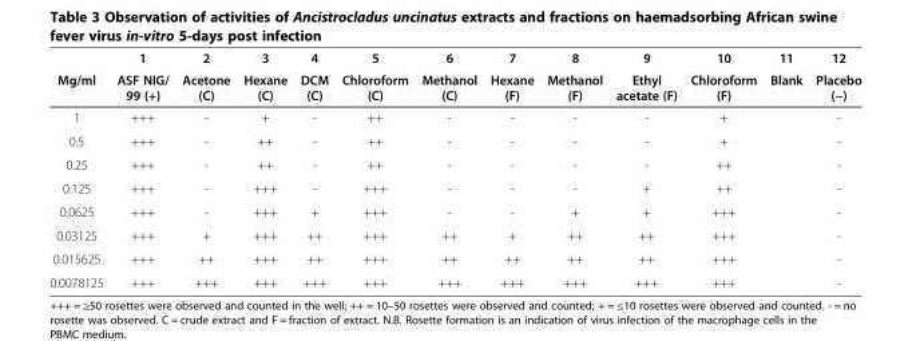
<table><thead><tr><td rowspan="2">Mg/ml</td><td rowspan="2">1 ASF NIG/ 99 (+)</td><td rowspan="2">2 Acetone (C)</td><td rowspan="2">3 Hexane (C)</td><td rowspan="2">4 DCM (C)</td><td rowspan="2">5 Chloroform (C)</td><td rowspan="2">6 Methanol (C)</td><td rowspan="2">7 Hexane (F)</td><td rowspan="2">8 Methanol (F)</td><td rowspan="2">9 Ethyl acetate (F)</td><td rowspan="2">10 Chloroform (F)</td><td rowspan="2">11 Blank</td><td rowspan="2">12 Placebo (−)</td></tr><tr></tr></thead><tbody><tr><td>1</td><td>+++</td><td>-</td><td>+</td><td>-</td><td>++</td><td>-</td><td>-</td><td>-</td><td>-</td><td>+</td><td></td><td>-</td></tr><tr><td>0.5</td><td>+++</td><td>-</td><td>++</td><td>-</td><td>++</td><td>-</td><td>-</td><td>-</td><td>-</td><td>+</td><td></td><td>-</td></tr><tr><td>0.25</td><td>+++</td><td>-</td><td>++</td><td>-</td><td>++</td><td>-</td><td>-</td><td>-</td><td>-</td><td>++</td><td></td><td>-</td></tr><tr><td>0.125</td><td>+++</td><td>-</td><td>+++</td><td>-</td><td>+++</td><td>-</td><td>-</td><td>-</td><td>+</td><td>++</td><td></td><td>-</td></tr><tr><td>0.0625</td><td>+++</td><td>-</td><td>+++</td><td>+</td><td>+++</td><td>-</td><td>-</td><td>+</td><td>+</td><td>+++</td><td></td><td>-</td></tr><tr><td>0.03125</td><td>+++</td><td>+</td><td>+++</td><td>++</td><td>+++</td><td>++</td><td>+</td><td>++</td><td>++</td><td>+++</td><td></td><td>-</td></tr><tr><td>0.015625</td><td>+++</td><td>++</td><td>+++</td><td>++</td><td>+++</td><td>++</td><td>++</td><td>++</td><td>++</td><td>+++</td><td></td><td>-</td></tr><tr><td>0.0078125</td><td>+++</td><td>+++</td><td>+++</td><td>+++</td><td>+++</td><td>+++</td><td>+++</td><td>+++</td><td>+++</td><td>+++</td><td></td><td>-</td></tr></tbody></table>